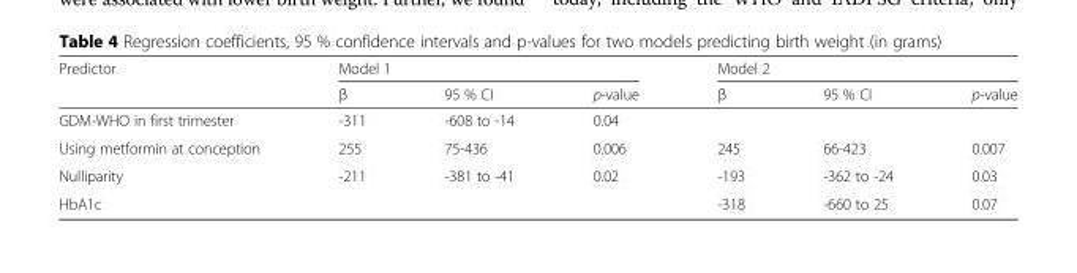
<table><thead><tr><td rowspan="2">Predictor</td><td colspan="3">Model 1</td><td colspan="3">Model 2</td></tr><tr><td>β</td><td>95 % CI</td><td>p-value</td><td>β</td><td>95 % CI</td><td>p-value</td></tr></thead><tbody><tr><td>GDM-WHO in first trimester</td><td>-311</td><td>-608 to -14</td><td>0.04</td><td></td><td></td><td></td></tr><tr><td>Using metformin at conception</td><td>255</td><td>75-436</td><td>0.006</td><td>245</td><td>66-423</td><td>0.007</td></tr><tr><td>Nulliparity</td><td>-211</td><td>-381 to -41</td><td>0.02</td><td>-193</td><td>-362 to -24</td><td>0.03</td></tr><tr><td>HbA1c</td><td></td><td></td><td></td><td>-318</td><td>-660 to 25</td><td>0.07</td></tr></tbody></table>